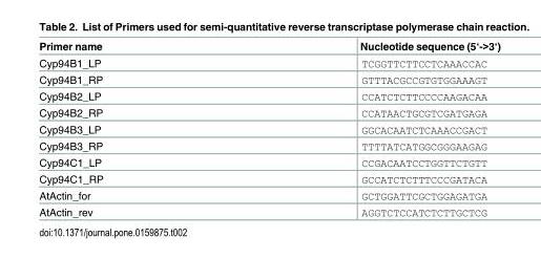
<table><thead><tr><td>Primer name</td><td>Nucleotide sequence (5‘-&gt;3‘)</td></tr></thead><tbody><tr><td>Cyp94B1_LP</td><td>TCGGTTCTTCCTCAAACCAC</td></tr><tr><td>Cyp94B1_RP</td><td>GTTTACGCCGTGTGGAAAGT</td></tr><tr><td>Cyp94B2_LP</td><td>CCATCTCTTCCCCAAGACAA</td></tr><tr><td>Cyp94B2_RP</td><td>CCATAACTGCGTCGATGAGA</td></tr><tr><td>Cyp94B3_LP</td><td>GGCACAATCTCAAACCGACT</td></tr><tr><td>Cyp94B3_RP</td><td>TTTTATCATGGCGGGAAGAG</td></tr><tr><td>Cyp94C1_LP</td><td>CCGACAATCCTGGTTCTGTT</td></tr><tr><td>Cyp94C1_RP</td><td>GCCATCTCTTTCCCGATACA</td></tr><tr><td>AtActin_for</td><td>GCTGGATTCGCTGGAGATGA</td></tr><tr><td>AtActin_rev</td><td>AGGTCTCCATCTCTTGCTCG</td></tr></tbody></table>